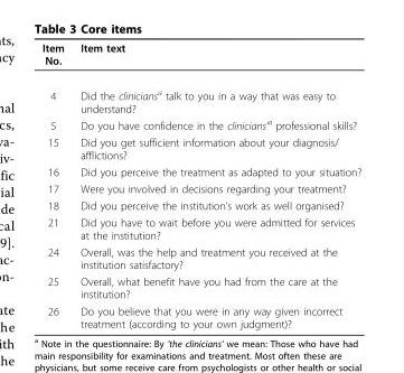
<table><thead><tr><td>Item No.</td><td>Item text</td></tr></thead><tbody><tr><td>4</td><td>Did the clinicians<sup>a</sup> talk to you in a way that was easy to understand?</td></tr><tr><td>5</td><td>Do you have confidence in the clinicians’<sup>a</sup> professional skills?</td></tr><tr><td>15</td><td>Did you get sufficient information about your diagnosis/ afflictions?</td></tr><tr><td>16</td><td>Did you perceive the treatment as adapted to your situation?</td></tr><tr><td>17</td><td>Were you involved in decisions regarding your treatment?</td></tr><tr><td>18</td><td>Did you perceive the institution’s work as well organised?</td></tr><tr><td>21</td><td>Did you have to wait before you were admitted for services at the institution?</td></tr><tr><td>24</td><td>Overall, was the help and treatment you received at the institution satisfactory?</td></tr><tr><td>25</td><td>Overall, what benefit have you had from the care at the institution?</td></tr><tr><td>26</td><td>Do you believe that you were in any way given incorrect treatment (according to your own judgment)?</td></tr></tbody></table>